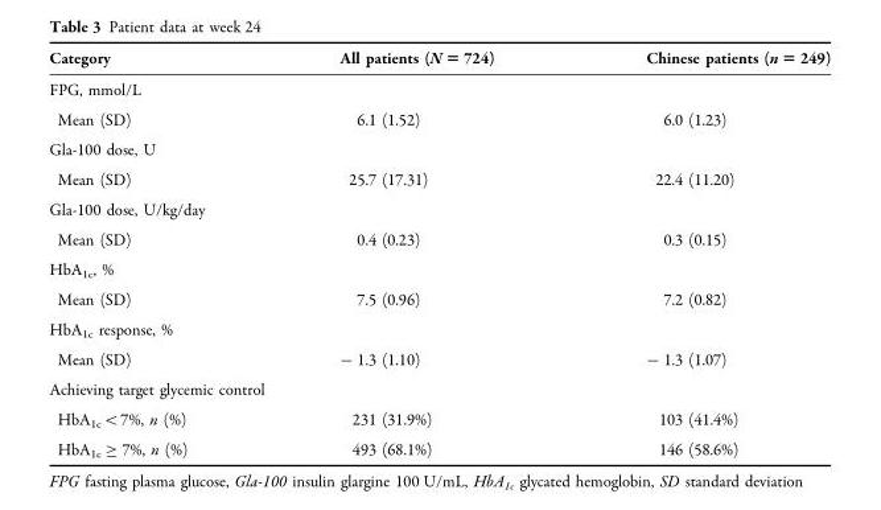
<table><thead><tr><td>Category</td><td>All patients (N = 724)</td><td>Chinese patients (n = 249)</td></tr></thead><tbody><tr><td colspan="3">FPG, mmol/L</td></tr><tr><td>Mean (SD)</td><td>6.1 (1.52)</td><td>6.0 (1.23)</td></tr><tr><td colspan="3">Gla-100 dose, U</td></tr><tr><td>Mean (SD)</td><td>25.7 (17.31)</td><td>22.4 (11.20)</td></tr><tr><td colspan="3">Gla-100 dose, U/kg/day</td></tr><tr><td>Mean (SD)</td><td>0.4 (0.23)</td><td>0.3 (0.15)</td></tr><tr><td colspan="3">HbA<sub>1c</sub>, %</td></tr><tr><td>Mean (SD)</td><td>7.5 (0.96)</td><td>7.2 (0.82)</td></tr><tr><td colspan="3">HbA<sub>1c</sub> response, %</td></tr><tr><td>Mean (SD)</td><td>- 1.3 (1.10)</td><td>- 1.3 (1.07)</td></tr><tr><td colspan="3">Achieving target glycemic control</td></tr><tr><td>HbA<sub>1c</sub>&lt;7%, n (%)</td><td>231 (31.9%)</td><td>103 (41.4%)</td></tr><tr><td>HbA<sub>1c</sub> ≥ 7%, n (%)</td><td>493 (68.1%)</td><td>146 (58.6%)</td></tr></tbody></table>